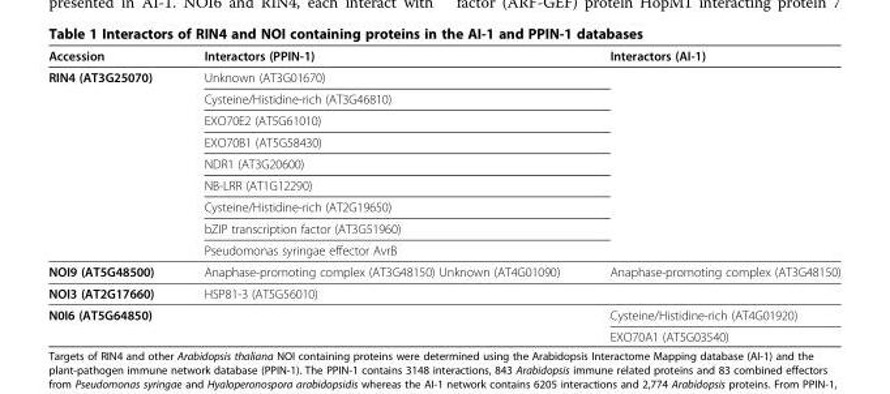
<table><thead><tr><td>Accession</td><td>Interactors (PPIN-1)</td><td>Interactors (AI-1)</td></tr></thead><tbody><tr><td rowspan="9">RIN4 (AT3G25070)</td><td>Unknown (AT3G01670)</td><td rowspan="9"></td></tr><tr><td>Cysteine/Histidine-rich (AT3G46810)</td></tr><tr><td>EXO70E2 (AT5G61010)</td></tr><tr><td>EXO70B1 (AT5G58430)</td></tr><tr><td>NDR1 (AT3G20600)</td></tr><tr><td>NB-LRR (AT1G12290)</td></tr><tr><td>Cysteine/Histidine-rich (AT2G19650)</td></tr><tr><td>bZIP transcription factor (AT3G51960)</td></tr><tr><td>Pseudomonas syringae effector AvrB</td></tr><tr><td>NOI9 (AT5G48500)</td><td>Anaphase-promoting complex (AT3G48150) Unknown (AT4G01090)</td><td>Anaphase-promoting complex (AT3G48150)</td></tr><tr><td>NOI3 (AT2G17660)</td><td>HSP81-3 (AT5G56010)</td><td></td></tr><tr><td rowspan="2">N0I6 (AT5G64850)</td><td rowspan="2"></td><td>Cysteine/Histidine-rich (AT4G01920)</td></tr><tr><td>EXO70A1 (AT5G03540)</td></tr></tbody></table>